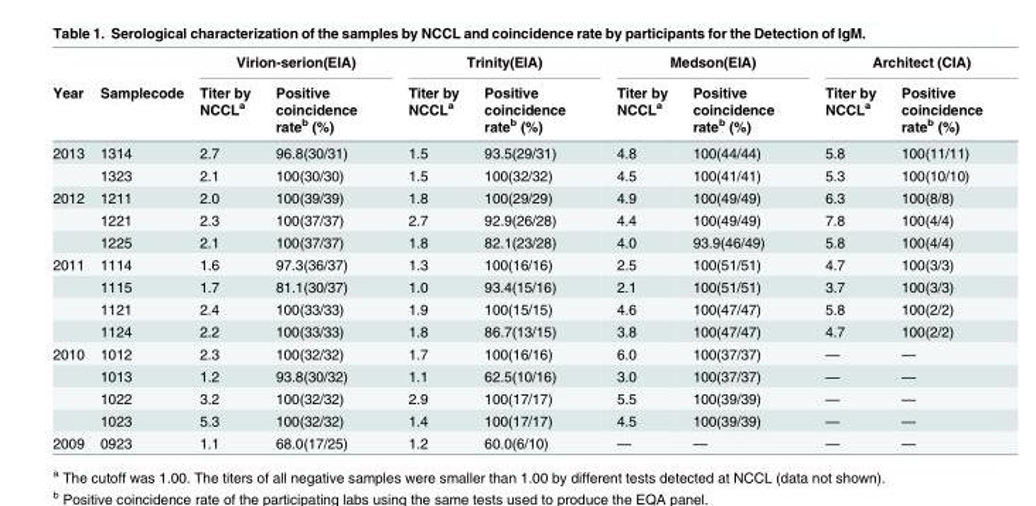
<table><thead><tr><td rowspan="2">Year</td><td rowspan="2">Samplecode</td><td colspan="2">Virion-serion(EIA)</td><td colspan="2">Trinity(EIA)</td><td colspan="2">Medson(EIA)</td><td colspan="2">Architect (CIA)</td></tr><tr><td>Titer by NCCL<sup>a</sup></td><td>Positive coincidence rate<sup>b</sup> (%)</td><td>Titer by NCCL<sup>a</sup></td><td>Positive coincidence rate<sup>b</sup> (%)</td><td>Titer by NCCL<sup>a</sup></td><td>Positive coincidence rate<sup>b</sup> (%)</td><td>Titer by NCCL<sup>a</sup></td><td>Positive coincidence rate<sup>b</sup> (%)</td></tr></thead><tbody><tr><td rowspan="2">2013</td><td>1314</td><td>2.7</td><td>96.8(30/31)</td><td>1.5</td><td>93.5(29/31)</td><td>4.8</td><td>100(44/44)</td><td>5.8</td><td>100(11/11)</td></tr><tr><td>1323</td><td>2.1</td><td>100(30/30)</td><td>1.5</td><td>100(32/32)</td><td>4.5</td><td>100(41/41)</td><td>5.3</td><td>100(10/10)</td></tr><tr><td rowspan="3">2012</td><td>1211</td><td>2.0</td><td>100(39/39)</td><td>1.8</td><td>100(29/29)</td><td>4.9</td><td>100(49/49)</td><td>6.3</td><td>100(8/8)</td></tr><tr><td>1221</td><td>2.3</td><td>100(37/37)</td><td>2.7</td><td>92.9(26/28)</td><td>4.4</td><td>100(49/49)</td><td>7.8</td><td>100(4/4)</td></tr><tr><td>1225</td><td>2.1</td><td>100(37/37)</td><td>1.8</td><td>82.1(23/28)</td><td>4.0</td><td>93.9(46/49)</td><td>5.8</td><td>100(4/4)</td></tr><tr><td rowspan="4">2011</td><td>1114</td><td>1.6</td><td>97.3(36/37)</td><td>1.3</td><td>100(16/16)</td><td>2.5</td><td>100(51/51)</td><td>4.7</td><td>100(3/3)</td></tr><tr><td>1115</td><td>1.7</td><td>81.1(30/37)</td><td>1.0</td><td>93.4(15/16)</td><td>2.1</td><td>100(51/51)</td><td>3.7</td><td>100(3/3)</td></tr><tr><td>1121</td><td>2.4</td><td>100(33/33)</td><td>1.9</td><td>100(15/15)</td><td>4.6</td><td>100(47/47)</td><td>5.8</td><td>100(2/2)</td></tr><tr><td>1124</td><td>2.2</td><td>100(33/33)</td><td>1.8</td><td>86.7(13/15)</td><td>3.8</td><td>100(47/47)</td><td>4.7</td><td>100(2/2)</td></tr><tr><td rowspan="4">2010</td><td>1012</td><td>2.3</td><td>100(32/32)</td><td>1.7</td><td>100(16/16)</td><td>6.0</td><td>100(37/37)</td><td>—</td><td>—</td></tr><tr><td>1013</td><td>1.2</td><td>93.8(30/32)</td><td>1.1</td><td>62.5(10/16)</td><td>3.0</td><td>100(37/37)</td><td>—</td><td>—</td></tr><tr><td>1022</td><td>3.2</td><td>100(32/32)</td><td>2.9</td><td>100(17/17)</td><td>5.5</td><td>100(39/39)</td><td>—</td><td>—</td></tr><tr><td>1023</td><td>5.3</td><td>100(32/32)</td><td>1.4</td><td>100(17/17)</td><td>4.5</td><td>100(39/39)</td><td>—</td><td>—</td></tr><tr><td>2009</td><td>0923</td><td>1.1</td><td>68.0(17/25)</td><td>1.2</td><td>60.0(6/10)</td><td>—</td><td>—</td><td>—</td><td>—</td></tr></tbody></table>